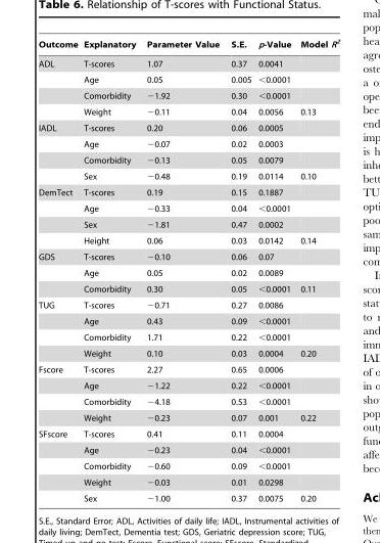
<table><thead><tr><td>Outcome</td><td>Explanatory</td><td>Parameter Value</td><td>S.E.</td><td>p-Value</td><td>Model R<sup>2</sup></td></tr></thead><tbody><tr><td rowspan="4">ADL</td><td>T-scores</td><td>1.07</td><td>0.37</td><td>0.0041</td><td></td></tr><tr><td>Age</td><td>0.05</td><td>0.005</td><td>&lt;0.0001</td><td></td></tr><tr><td>Comorbidity</td><td>−1.92</td><td>0.30</td><td>&lt;0.0001</td><td></td></tr><tr><td>Weight</td><td>−0.11</td><td>0.04</td><td>0.0056</td><td>0.13</td></tr><tr><td rowspan="4">IADL</td><td>T-scores</td><td>0.20</td><td>0.06</td><td>0.0005</td><td></td></tr><tr><td>Age</td><td>−0.07</td><td>0.02</td><td>0.0003</td><td></td></tr><tr><td>Comorbidity</td><td>−0.13</td><td>0.05</td><td>0.0079</td><td></td></tr><tr><td>Sex</td><td>−0.48</td><td>0.19</td><td>0.0114</td><td>0.10</td></tr><tr><td rowspan="4">DemTect</td><td>T-scores</td><td>0.19</td><td>0.15</td><td>0.1887</td><td></td></tr><tr><td>Age</td><td>−0.33</td><td>0.04</td><td>&lt;0.0001</td><td></td></tr><tr><td>Sex</td><td>−1.81</td><td>0.47</td><td>0.0002</td><td></td></tr><tr><td>Height</td><td>0.06</td><td>0.03</td><td>0.0142</td><td>0.14</td></tr><tr><td rowspan="3">GDS</td><td>T-scores</td><td>−0.10</td><td>0.06</td><td>0.07</td><td></td></tr><tr><td>Age</td><td>0.05</td><td>0.02</td><td>0.0089</td><td></td></tr><tr><td>Comorbidity</td><td>0.30</td><td>0.05</td><td>&lt;0.0001</td><td>0.11</td></tr><tr><td rowspan="4">TUG</td><td>T-scores</td><td>−0.71</td><td>0.27</td><td>0.0086</td><td></td></tr><tr><td>Age</td><td>0.43</td><td>0.09</td><td>&lt;0.0001</td><td></td></tr><tr><td>Comorbidity</td><td>1.71</td><td>0.22</td><td>&lt;0.0001</td><td></td></tr><tr><td>Weight</td><td>0.10</td><td>0.03</td><td>0.0004</td><td>0.20</td></tr><tr><td rowspan="4">Fscore</td><td>T-scores</td><td>2.27</td><td>0.65</td><td>0.0006</td><td></td></tr><tr><td>Age</td><td>−1.22</td><td>0.22</td><td>&lt;0.0001</td><td></td></tr><tr><td>Comorbidity</td><td>−4.18</td><td>0.53</td><td>&lt;0.0001</td><td></td></tr><tr><td>Weight</td><td>−0.23</td><td>0.07</td><td>0.001</td><td>0.22</td></tr><tr><td rowspan="5">SFscore</td><td>T-scores</td><td>0.41</td><td>0.11</td><td>0.0004</td><td></td></tr><tr><td>Age</td><td>−0.23</td><td>0.04</td><td>&lt;0.0001</td><td></td></tr><tr><td>Comorbidity</td><td>−0.60</td><td>0.09</td><td>&lt;0.0001</td><td></td></tr><tr><td>Weight</td><td>−0.03</td><td>0.01</td><td>0.0298</td><td></td></tr><tr><td>Sex</td><td>−1.00</td><td>0.37</td><td>0.0075</td><td>0.20</td></tr></tbody></table>